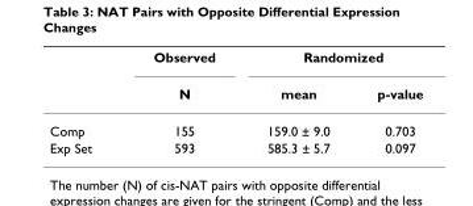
<table><thead><tr><td rowspan="2"></td><td rowspan="2">Observed N</td><td colspan="2">Randomized</td></tr><tr><td>mean</td><td>p-value</td></tr></thead><tbody><tr><td>Comp</td><td>155</td><td>159.0 ± 9.0</td><td>0.703</td></tr><tr><td>Exp Set</td><td>593</td><td>585.3 ± 5.7</td><td>0.097</td></tr></tbody></table>